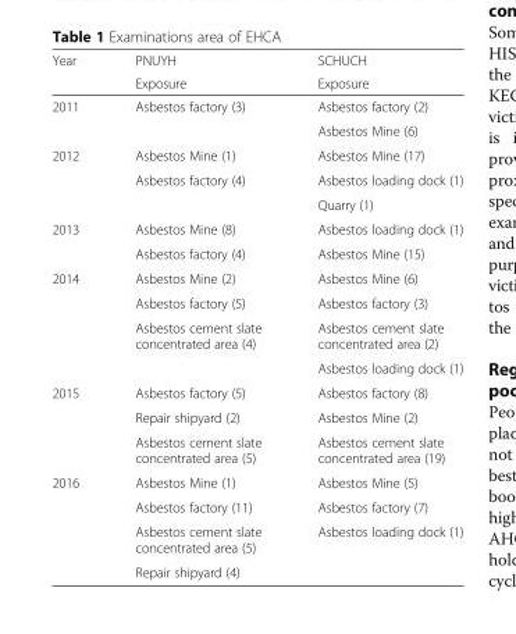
<table><thead><tr><td rowspan="2">Year</td><td rowspan="2">PNUYH Exposure</td><td rowspan="2">SCHUCH Exposure</td></tr><tr></tr></thead><tbody><tr><td rowspan="2">2011</td><td rowspan="2">Asbestos factory (3)</td><td>Asbestos factory (2)</td></tr><tr><td>Asbestos Mine (6)</td></tr><tr><td rowspan="3">2012</td><td>Asbestos Mine (1)</td><td>Asbestos Mine (17)</td></tr><tr><td rowspan="2">Asbestos factory (4)</td><td>Asbestos loading dock (1)</td></tr><tr><td>Quarry (1)</td></tr><tr><td rowspan="2">2013</td><td>Asbestos Mine (8)</td><td>Asbestos loading dock (1)</td></tr><tr><td>Asbestos factory (4)</td><td>Asbestos Mine (15)</td></tr><tr><td rowspan="4">2014</td><td>Asbestos Mine (2)</td><td>Asbestos Mine (6)</td></tr><tr><td>Asbestos factory (5)</td><td>Asbestos factory (3)</td></tr><tr><td rowspan="2">Asbestos cement slate concentrated area (4)</td><td>Asbestos cement slate concentrated area (2)</td></tr><tr><td>Asbestos loading dock (1)</td></tr><tr><td rowspan="3">2015</td><td>Asbestos factory (5)</td><td>Asbestos factory (8)</td></tr><tr><td>Repair shipyard (2)</td><td>Asbestos Mine (2)</td></tr><tr><td>Asbestos cement slate concentrated area (5)</td><td>Asbestos cement slate concentrated area (19)</td></tr><tr><td rowspan="4">2016</td><td>Asbestos Mine (1)</td><td>Asbestos Mine (5)</td></tr><tr><td>Asbestos factory (11)</td><td>Asbestos factory (7)</td></tr><tr><td>Asbestos cement slate concentrated area (5)</td><td rowspan="2">Asbestos loading dock (1)</td></tr><tr><td>Repair shipyard (4)</td></tr></tbody></table>